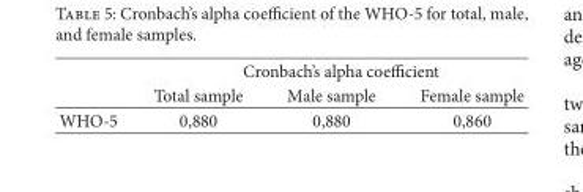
<table><thead><tr><td rowspan="2"></td><td colspan="3">Cronbach’s alpha coefficient</td></tr><tr><td>Total sample</td><td>Male sample</td><td>Female sample</td></tr></thead><tbody><tr><td>WHO-5</td><td>0,880</td><td>0,880</td><td>0,860</td></tr></tbody></table>